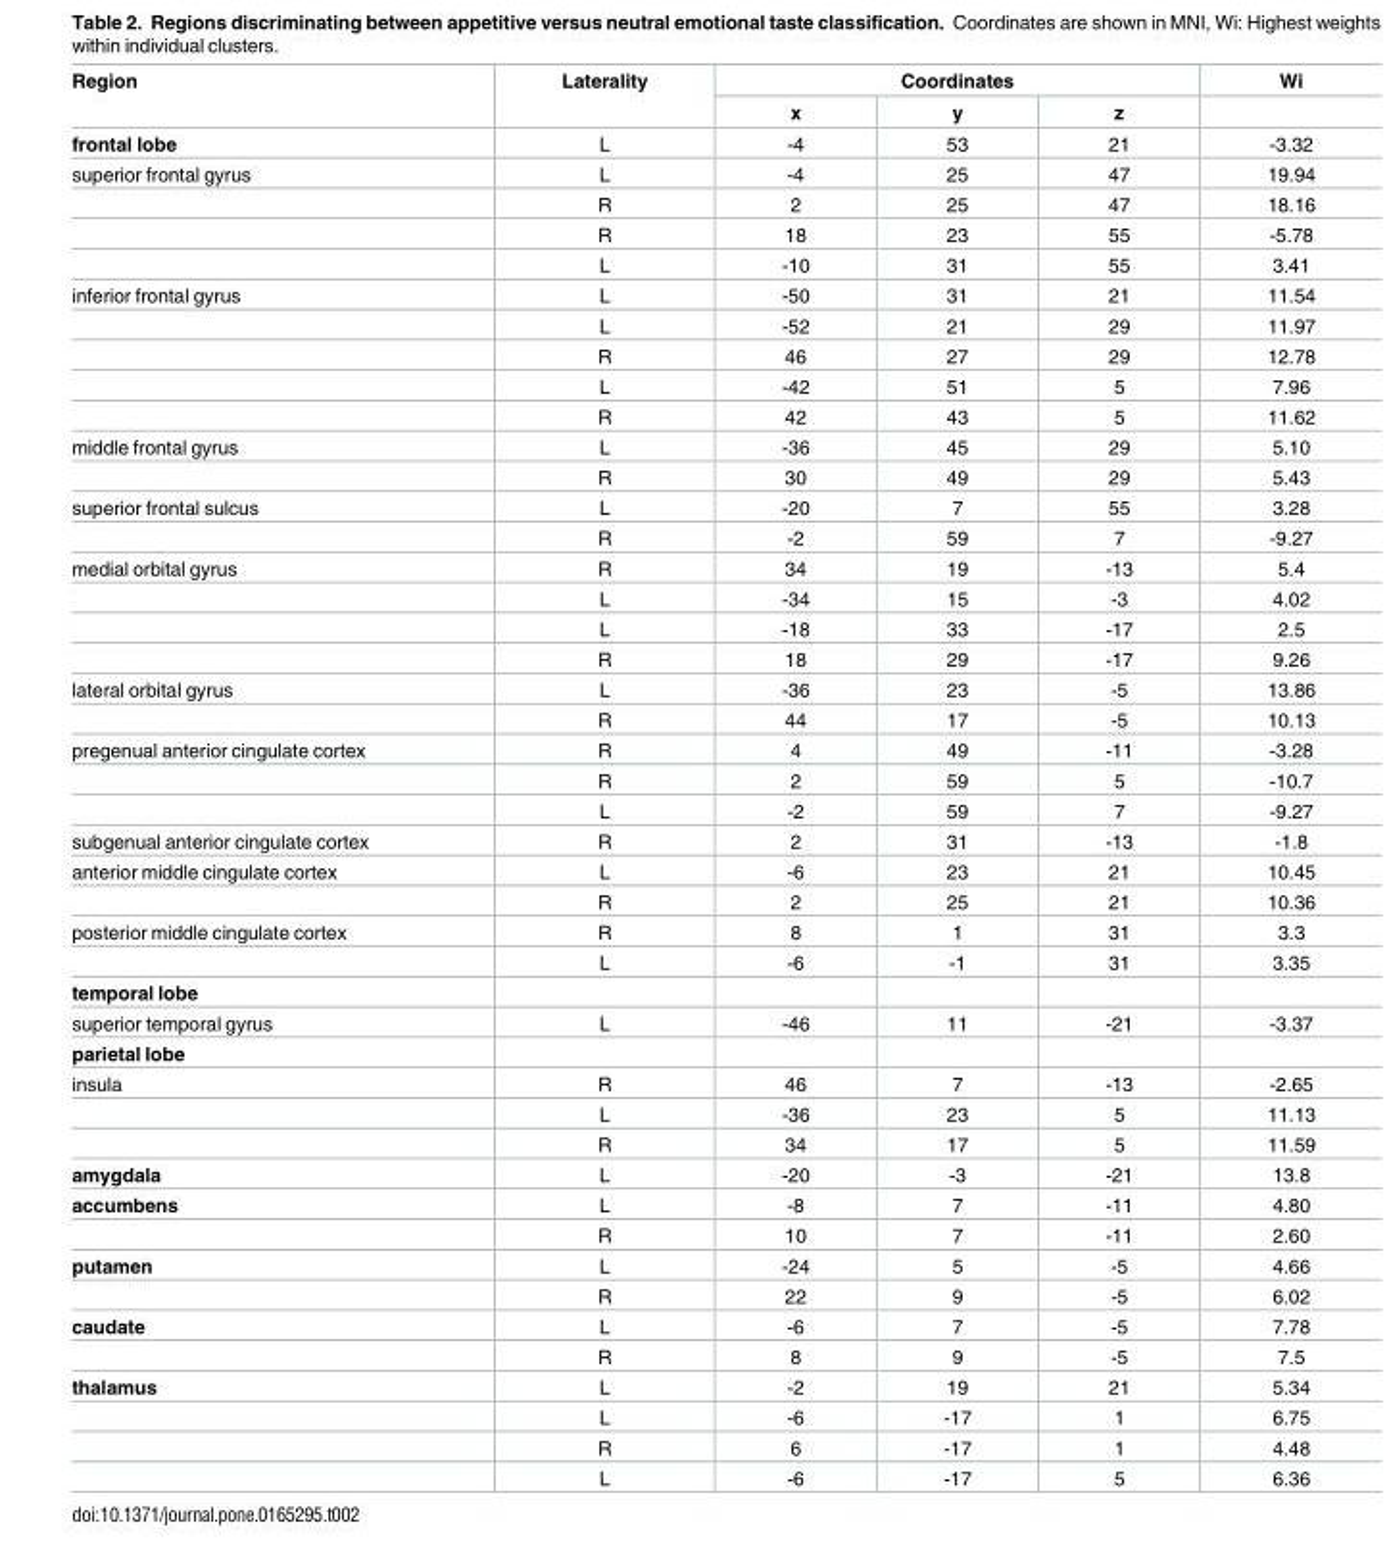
<table><thead><tr><td rowspan="2">Region</td><td rowspan="2">Laterality</td><td colspan="3">Coordinates</td><td rowspan="2">Wi</td></tr><tr><td>x</td><td>y</td><td>z</td></tr></thead><tbody><tr><td>frontal lobe</td><td>L</td><td>-4</td><td>53</td><td>21</td><td>-3.32</td></tr><tr><td rowspan="4">superior frontal gyrus</td><td>L</td><td>-4</td><td>25</td><td>47</td><td>19.94</td></tr><tr><td>R</td><td>2</td><td>25</td><td>47</td><td>18.16</td></tr><tr><td>R</td><td>18</td><td>23</td><td>55</td><td>-5.78</td></tr><tr><td>L</td><td>-10</td><td>31</td><td>55</td><td>3.41</td></tr><tr><td rowspan="5">inferior frontal gyrus</td><td>L</td><td>-50</td><td>31</td><td>21</td><td>11.54</td></tr><tr><td>L</td><td>-52</td><td>21</td><td>29</td><td>11.97</td></tr><tr><td>R</td><td>46</td><td>27</td><td>29</td><td>12.78</td></tr><tr><td>L</td><td>-42</td><td>51</td><td>5</td><td>7.96</td></tr><tr><td>R</td><td>42</td><td>43</td><td>5</td><td>11.62</td></tr><tr><td rowspan="2">middle frontal gyrus</td><td>L</td><td>-36</td><td>45</td><td>29</td><td>5.10</td></tr><tr><td>R</td><td>30</td><td>49</td><td>29</td><td>5.43</td></tr><tr><td rowspan="2">superior frontal sulcus</td><td>L</td><td>-20</td><td>7</td><td>55</td><td>3.28</td></tr><tr><td>R</td><td>-2</td><td>59</td><td>7</td><td>-9.27</td></tr><tr><td rowspan="4">medial orbital gyrus</td><td>R</td><td>34</td><td>19</td><td>-13</td><td>5.4</td></tr><tr><td>L</td><td>-34</td><td>15</td><td>-3</td><td>4.02</td></tr><tr><td>L</td><td>-18</td><td>33</td><td>-17</td><td>2.5</td></tr><tr><td>R</td><td>18</td><td>29</td><td>-17</td><td>9.26</td></tr><tr><td rowspan="2">lateral orbital gyrus</td><td>L</td><td>-36</td><td>23</td><td>-5</td><td>13.86</td></tr><tr><td>R</td><td>44</td><td>17</td><td>-5</td><td>10.13</td></tr><tr><td rowspan="3">pregenual anterior cingulate cortex</td><td>R</td><td>4</td><td>49</td><td>-11</td><td>-3.28</td></tr><tr><td>R</td><td>2</td><td>59</td><td>5</td><td>-10.7</td></tr><tr><td>L</td><td>-2</td><td>59</td><td>7</td><td>-9.27</td></tr><tr><td>subgenual anterior cingulate cortex</td><td>R</td><td>2</td><td>31</td><td>-13</td><td>-1.8</td></tr><tr><td rowspan="2">anterior middle cingulate cortex</td><td>L</td><td>-6</td><td>23</td><td>21</td><td>10.45</td></tr><tr><td>R</td><td>2</td><td>25</td><td>21</td><td>10.36</td></tr><tr><td rowspan="2">posterior middle cingulate cortex</td><td>R</td><td>8</td><td>1</td><td>31</td><td>3.3</td></tr><tr><td>L</td><td>-6</td><td>-1</td><td>31</td><td>3.35</td></tr><tr><td colspan="6">temporal lobe</td></tr><tr><td>superior temporal gyrus</td><td>L</td><td>-46</td><td>11</td><td>-21</td><td>-3.37</td></tr><tr><td colspan="6">parietal lobe</td></tr><tr><td rowspan="3">insula</td><td>R</td><td>46</td><td>7</td><td>-13</td><td>-2.65</td></tr><tr><td>L</td><td>-36</td><td>23</td><td>5</td><td>11.13</td></tr><tr><td>R</td><td>34</td><td>17</td><td>5</td><td>11.59</td></tr><tr><td>amygdala</td><td>L</td><td>-20</td><td>-3</td><td>-21</td><td>13.8</td></tr><tr><td rowspan="2">accumbens</td><td>L</td><td>-8</td><td>7</td><td>-11</td><td>4.80</td></tr><tr><td>R</td><td>10</td><td>7</td><td>-11</td><td>2.60</td></tr><tr><td rowspan="2">putamen</td><td>L</td><td>-24</td><td>5</td><td>-5</td><td>4.66</td></tr><tr><td>R</td><td>22</td><td>9</td><td>-5</td><td>6.02</td></tr><tr><td rowspan="2">caudate</td><td>L</td><td>-6</td><td>7</td><td>-5</td><td>7.78</td></tr><tr><td>R</td><td>8</td><td>9</td><td>-5</td><td>7.5</td></tr><tr><td rowspan="4">thalamus</td><td>L</td><td>-2</td><td>19</td><td>21</td><td>5.34</td></tr><tr><td>L</td><td>-6</td><td>-17</td><td>1</td><td>6.75</td></tr><tr><td>R</td><td>6</td><td>-17</td><td>1</td><td>4.48</td></tr><tr><td>L</td><td>-6</td><td>-17</td><td>5</td><td>6.36</td></tr></tbody></table>